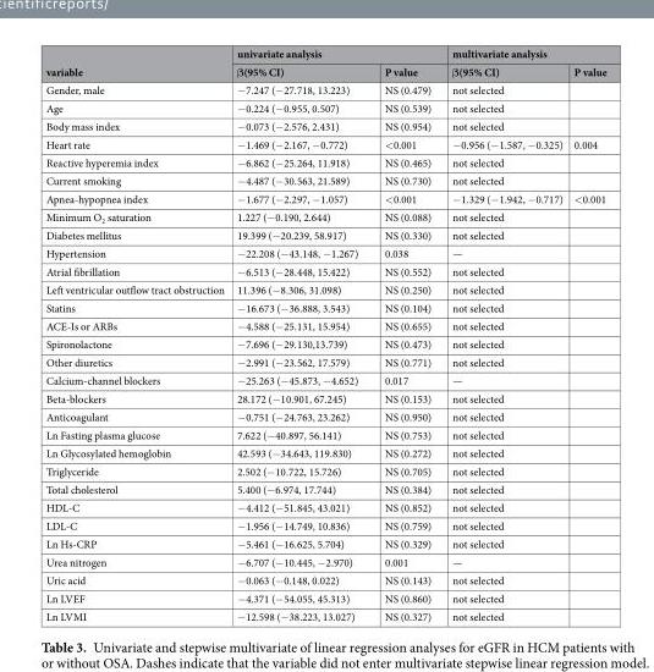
<table><thead><tr><td rowspan="2">variable</td><td colspan="2">univariate analysis</td><td colspan="2">multivariate analysis</td></tr><tr><td>β(95% CI)</td><td>P value</td><td>β(95% CI)</td><td>P value</td></tr></thead><tbody><tr><td>Gender, male</td><td>−7.247 (−27.718, 13.223)</td><td>NS (0.479)</td><td>not selected</td><td></td></tr><tr><td>Age</td><td>−0.224 (−0.955, 0.507)</td><td>NS (0.539)</td><td>not selected</td><td></td></tr><tr><td>Body mass index</td><td>−0.073 (−2.576, 2.431)</td><td>NS (0.954)</td><td>not selected</td><td></td></tr><tr><td>Heart rate</td><td>−1.469 (−2.167, −0.772)</td><td>&lt;0.001</td><td>−0.956 (−1.587, −0.325)</td><td>0.004</td></tr><tr><td>Reactive hyperemia index</td><td>−6.862 (−25.264, 11.918)</td><td>NS (0.465)</td><td>not selected</td><td></td></tr><tr><td>Current smoking</td><td>−4.487 (−30.563, 21.589)</td><td>NS (0.730)</td><td>not selected</td><td></td></tr><tr><td>Apnea-hypopnea index</td><td>−1.677 (−2.297, −1.057)</td><td>&lt;0.001</td><td>−1.329 (−1.942, −0.717)</td><td>&lt;0.001</td></tr><tr><td>Minimum O<sub>2</sub> saturation</td><td>1.227 (−0.190, 2.644)</td><td>NS (0.088)</td><td>not selected</td><td></td></tr><tr><td>Diabetes mellitus</td><td>19.399 (−20.239, 58.917)</td><td>NS (0.330)</td><td>not selected</td><td></td></tr><tr><td>Hypertension</td><td>−22.208 (−43.148, −1.267)</td><td>0.038</td><td>—</td><td></td></tr><tr><td>Atrial fibrillation</td><td>−6.513 (−28.448, 15.422)</td><td>NS (0.552)</td><td>not selected</td><td></td></tr><tr><td>Left ventricular outflow tract obstruction</td><td>11.396 (−8.306, 31.098)</td><td>NS (0.250)</td><td>not selected</td><td></td></tr><tr><td>Statins</td><td>−16.673 (−36.888, 3.543)</td><td>NS (0.104)</td><td>not selected</td><td></td></tr><tr><td>ACE-Is or ARBs</td><td>−4.588 (−25.131, 15.954)</td><td>NS (0.655)</td><td>not selected</td><td></td></tr><tr><td>Spironolactone</td><td>−7.696 (−29.130,13.739)</td><td>NS (0.473)</td><td>not selected</td><td></td></tr><tr><td>Other diuretics</td><td>−2.991 (−23.562, 17.579)</td><td>NS (0.771)</td><td>not selected</td><td></td></tr><tr><td>Calcium-channel blockers</td><td>−25.263 (−45.873, −4.652)</td><td>0.017</td><td>—</td><td></td></tr><tr><td>Beta-blockers</td><td>28.172 (−10.901, 67.245)</td><td>NS (0.153)</td><td>not selected</td><td></td></tr><tr><td>Anticoagulant</td><td>−0.751 (−24.763, 23.262)</td><td>NS (0.950)</td><td>not selected</td><td></td></tr><tr><td>Ln Fasting plasma glucose</td><td>7.622 (−40.897, 56.141)</td><td>NS (0.753)</td><td>not selected</td><td></td></tr><tr><td>Ln Glycosylated hemoglobin</td><td>42.593 (−34.643, 119.830)</td><td>NS (0.272)</td><td>not selected</td><td></td></tr><tr><td>Triglyceride</td><td>2.502 (−10.722, 15.726)</td><td>NS (0.705)</td><td>not selected</td><td></td></tr><tr><td>Total cholesterol</td><td>5.400 (−6.974, 17.744)</td><td>NS (0.384)</td><td>not selected</td><td></td></tr><tr><td>HDL-C</td><td>−4.412 (−51.845, 43.021)</td><td>NS (0.852)</td><td>not selected</td><td></td></tr><tr><td>LDL-C</td><td>−1.956 (−14.749, 10.836)</td><td>NS (0.759)</td><td>not selected</td><td></td></tr><tr><td>Ln Hs-CRP</td><td>−5.461 (−16.625, 5.704)</td><td>NS (0.329)</td><td>not selected</td><td></td></tr><tr><td>Urea nitrogen</td><td>−6.707 (−10.445, −2.970)</td><td>0.001</td><td>—</td><td></td></tr><tr><td>Uric acid</td><td>−0.063 (−0.148, 0.022)</td><td>NS (0.143)</td><td>not selected</td><td></td></tr><tr><td>Ln LVEF</td><td>−4.371 (−54.055, 45.313)</td><td>NS (0.860)</td><td>not selected</td><td></td></tr><tr><td>Ln LVMI</td><td>−12.598 (−38.223, 13.027)</td><td>NS (0.327)</td><td>not selected</td><td></td></tr></tbody></table>